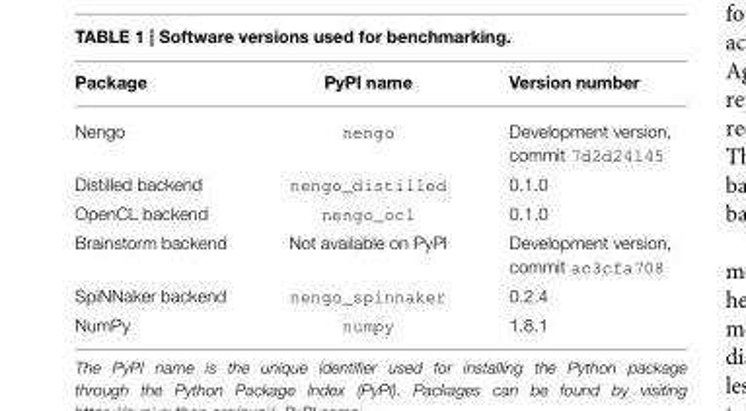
<table><thead><tr><td>Package</td><td>PyPI name</td><td>Version number</td></tr></thead><tbody><tr><td>Nengo</td><td>nengo</td><td>Development version, commit 7d2d24145</td></tr><tr><td>Distilled backend</td><td>nengo_distilled</td><td>0.1.0</td></tr><tr><td>OpenCL backend</td><td>nengo_ocl</td><td>0.1.0</td></tr><tr><td>Brainstorm backend</td><td>Not available on PyPI</td><td>Development version, commit ac3cfa708</td></tr><tr><td>SpiNNaker backend</td><td>nengo_spinnaker</td><td>0.2.4</td></tr><tr><td>NumPy</td><td>numpy</td><td>1.8.1</td></tr></tbody></table>